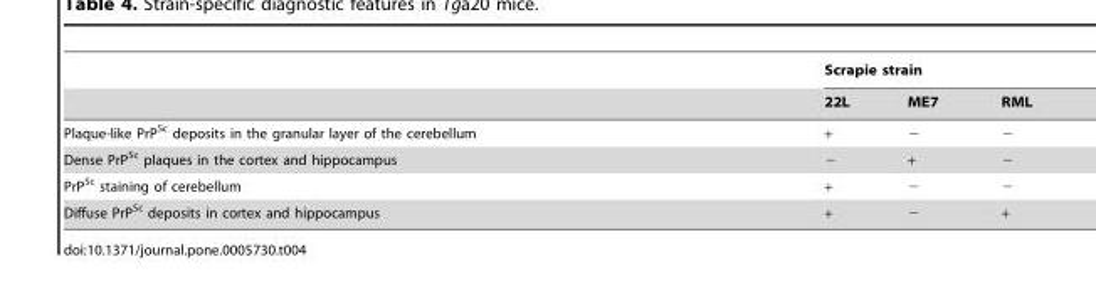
<table><thead><tr><td rowspan="2"></td><td colspan="3">Scrapie strain</td></tr><tr><td>22L</td><td>ME7</td><td>RML</td></tr></thead><tbody><tr><td>Plaque-like PrP<sup>Sc</sup> deposits in the granular layer of the cerebellum</td><td>+</td><td>−</td><td>−</td></tr><tr><td>Dense PrP<sup>Sc</sup> plaques in the cortex and hippocampus</td><td>−</td><td>+</td><td>−</td></tr><tr><td>PrP<sup>Sc</sup> staining of cerebellum</td><td>+</td><td>−</td><td>−</td></tr><tr><td>Diffuse PrP<sup>Sc</sup> deposits in cortex and hippocampus</td><td>+</td><td>−</td><td>+</td></tr></tbody></table>